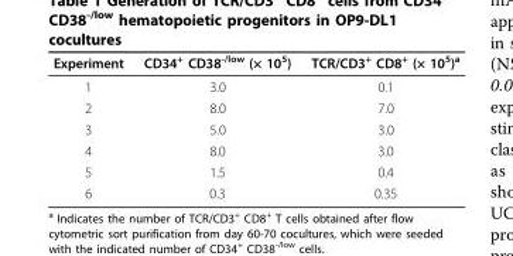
<table><thead><tr><td>Experiment</td><td>CD34<sup>+</sup> CD38<sup>-/low</sup> (× 10<sup>5</sup>)</td><td>TCR/CD3<sup>+</sup> CD8<sup>+</sup> (× 10<sup>5</sup>)<sup>a</sup></td></tr></thead><tbody><tr><td>1</td><td>3.0</td><td>0.1</td></tr><tr><td>2</td><td>8.0</td><td>7.0</td></tr><tr><td>3</td><td>5.0</td><td>3.0</td></tr><tr><td>4</td><td>8.0</td><td>3.0</td></tr><tr><td>5</td><td>1.5</td><td>0.4</td></tr><tr><td>6</td><td>0.3</td><td>0.35</td></tr></tbody></table>